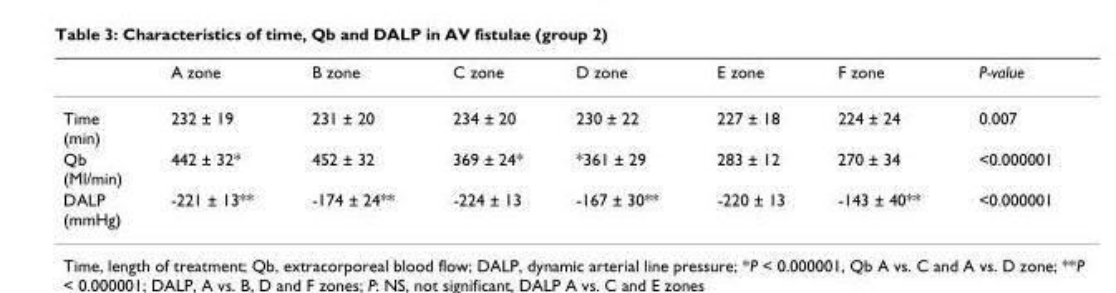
<table><thead><tr><td></td><td>A zone</td><td>B zone</td><td>C zone</td><td>D zone</td><td>E zone</td><td>F zone</td><td>P-value</td></tr></thead><tbody><tr><td>Time (min)</td><td>232 ± 19</td><td>231 ± 20</td><td>234 ± 20</td><td>230 ± 22</td><td>227 ± 18</td><td>224 ± 24</td><td>0.007</td></tr><tr><td>Qb (Ml/min)</td><td>442 ± 32*</td><td>452 ± 32</td><td>369 ± 24*</td><td>*361 ± 29</td><td>283 ± 12</td><td>270 ± 34</td><td>&lt;0.000001</td></tr><tr><td>DALP (mmHg)</td><td>-221 ± 13**</td><td>-174 ± 24**</td><td>-224 ± 13</td><td>-167 ± 30**</td><td>-220 ± 13</td><td>-143 ± 40**</td><td>&lt;0.000001</td></tr></tbody></table>